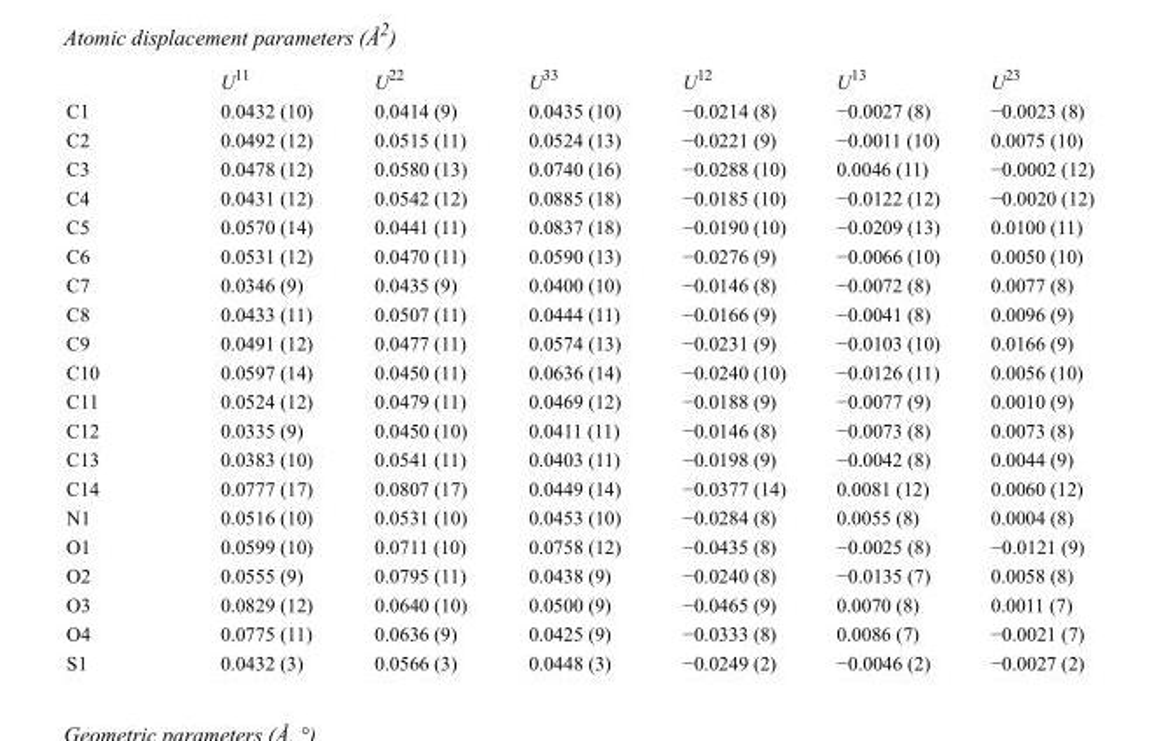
<table><thead><tr><td></td><td>U<sup>11</sup></td><td>U<sup>22</sup></td><td>U<sup>33</sup></td><td>U<sup>12</sup></td><td>U<sup>13</sup></td><td>U<sup>23</sup></td></tr></thead><tbody><tr><td>C1</td><td>0.0432 (10)</td><td>0.0414 (9)</td><td>0.0435 (10)</td><td>−0.0214 (8)</td><td>−0.0027 (8)</td><td>−0.0023 (8)</td></tr><tr><td>C2</td><td>0.0492 (12)</td><td>0.0515 (11)</td><td>0.0524 (13)</td><td>−0.0221 (9)</td><td>−0.0011 (10)</td><td>0.0075 (10)</td></tr><tr><td>C3</td><td>0.0478 (12)</td><td>0.0580 (13)</td><td>0.0740 (16)</td><td>−0.0288 (10)</td><td>0.0046 (11)</td><td>−0.0002 (12)</td></tr><tr><td>C4</td><td>0.0431 (12)</td><td>0.0542 (12)</td><td>0.0885 (18)</td><td>−0.0185 (10)</td><td>−0.0122 (12)</td><td>−0.0020 (12)</td></tr><tr><td>C5</td><td>0.0570 (14)</td><td>0.0441 (11)</td><td>0.0837 (18)</td><td>−0.0190 (10)</td><td>−0.0209 (13)</td><td>0.0100 (11)</td></tr><tr><td>C6</td><td>0.0531 (12)</td><td>0.0470 (11)</td><td>0.0590 (13)</td><td>−0.0276 (9)</td><td>−0.0066 (10)</td><td>0.0050 (10)</td></tr><tr><td>C7</td><td>0.0346 (9)</td><td>0.0435 (9)</td><td>0.0400 (10)</td><td>−0.0146 (8)</td><td>−0.0072 (8)</td><td>0.0077 (8)</td></tr><tr><td>C8</td><td>0.0433 (11)</td><td>0.0507 (11)</td><td>0.0444 (11)</td><td>−0.0166 (9)</td><td>−0.0041 (8)</td><td>0.0096 (9)</td></tr><tr><td>C9</td><td>0.0491 (12)</td><td>0.0477 (11)</td><td>0.0574 (13)</td><td>−0.0231 (9)</td><td>−0.0103 (10)</td><td>0.0166 (9)</td></tr><tr><td>C10</td><td>0.0597 (14)</td><td>0.0450 (11)</td><td>0.0636 (14)</td><td>−0.0240 (10)</td><td>−0.0126 (11)</td><td>0.0056 (10)</td></tr><tr><td>C11</td><td>0.0524 (12)</td><td>0.0479 (11)</td><td>0.0469 (12)</td><td>−0.0188 (9)</td><td>−0.0077 (9)</td><td>0.0010 (9)</td></tr><tr><td>C12</td><td>0.0335 (9)</td><td>0.0450 (10)</td><td>0.0411 (11)</td><td>−0.0146 (8)</td><td>−0.0073 (8)</td><td>0.0073 (8)</td></tr><tr><td>C13</td><td>0.0383 (10)</td><td>0.0541 (11)</td><td>0.0403 (11)</td><td>−0.0198 (9)</td><td>−0.0042 (8)</td><td>0.0044 (9)</td></tr><tr><td>C14</td><td>0.0777 (17)</td><td>0.0807 (17)</td><td>0.0449 (14)</td><td>−0.0377 (14)</td><td>0.0081 (12)</td><td>0.0060 (12)</td></tr><tr><td>N1</td><td>0.0516 (10)</td><td>0.0531 (10)</td><td>0.0453 (10)</td><td>−0.0284 (8)</td><td>0.0055 (8)</td><td>0.0004 (8)</td></tr><tr><td>O1</td><td>0.0599 (10)</td><td>0.0711 (10)</td><td>0.0758 (12)</td><td>−0.0435 (8)</td><td>−0.0025 (8)</td><td>−0.0121 (9)</td></tr><tr><td>O2</td><td>0.0555 (9)</td><td>0.0795 (11)</td><td>0.0438 (9)</td><td>−0.0240 (8)</td><td>−0.0135 (7)</td><td>0.0058 (8)</td></tr><tr><td>O3</td><td>0.0829 (12)</td><td>0.0640 (10)</td><td>0.0500 (9)</td><td>−0.0465 (9)</td><td>0.0070 (8)</td><td>0.0011 (7)</td></tr><tr><td>O4</td><td>0.0775 (11)</td><td>0.0636 (9)</td><td>0.0425 (9)</td><td>−0.0333 (8)</td><td>0.0086 (7)</td><td>−0.0021 (7)</td></tr><tr><td>S1</td><td>0.0432 (3)</td><td>0.0566 (3)</td><td>0.0448 (3)</td><td>−0.0249 (2)</td><td>−0.0046 (2)</td><td>−0.0027 (2)</td></tr></tbody></table>